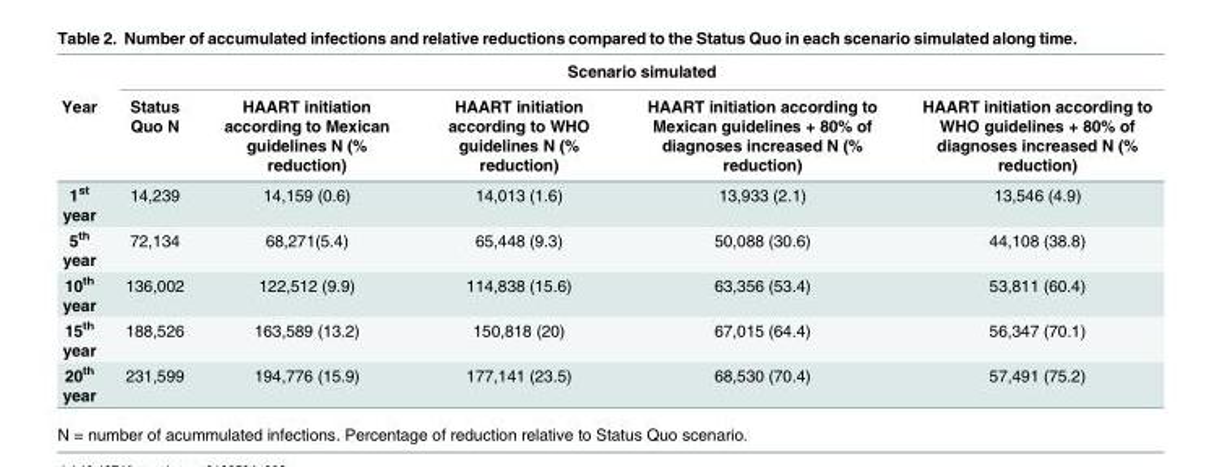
<table><thead><tr><td rowspan="2">Year</td><td colspan="5">Scenario simulated</td></tr><tr><td>Status Quo N</td><td>HAART initiation according to Mexican guidelines N (% reduction)</td><td>HAART initiation according to WHO guidelines N (% reduction)</td><td>HAART initiation according to Mexican guidelines + 80% of diagnoses increased N (% reduction)</td><td>HAART initiation according to WHO guidelines + 80% of diagnoses increased N (% reduction)</td></tr></thead><tbody><tr><td>1<sup>st</sup> year</td><td>14,239</td><td>14,159 (0.6)</td><td>14,013 (1.6)</td><td>13,933 (2.1)</td><td>13,546 (4.9)</td></tr><tr><td>5<sup>th</sup> year</td><td>72,134</td><td>68,271(5.4)</td><td>65,448 (9.3)</td><td>50,088 (30.6)</td><td>44,108 (38.8)</td></tr><tr><td>10<sup>th</sup> year</td><td>136,002</td><td>122,512 (9.9)</td><td>114,838 (15.6)</td><td>63,356 (53.4)</td><td>53,811 (60.4)</td></tr><tr><td>15<sup>th</sup> year</td><td>188,526</td><td>163,589 (13.2)</td><td>150,818 (20)</td><td>67,015 (64.4)</td><td>56,347 (70.1)</td></tr><tr><td>20<sup>th</sup> year</td><td>231,599</td><td>194,776 (15.9)</td><td>177,141 (23.5)</td><td>68,530 (70.4)</td><td>57,491 (75.2)</td></tr></tbody></table>